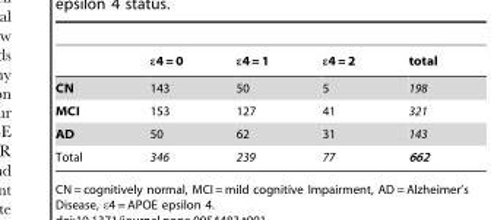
<table><thead><tr><td></td><td>ε4 = 0</td><td>ε4 = 1</td><td>ε4 = 2</td><td>total</td></tr></thead><tbody><tr><td>CN</td><td>143</td><td>50</td><td>5</td><td>198</td></tr><tr><td>MCI</td><td>153</td><td>127</td><td>41</td><td>321</td></tr><tr><td>AD</td><td>50</td><td>62</td><td>31</td><td>143</td></tr><tr><td>Total</td><td>346</td><td>239</td><td>77</td><td>662</td></tr></tbody></table>